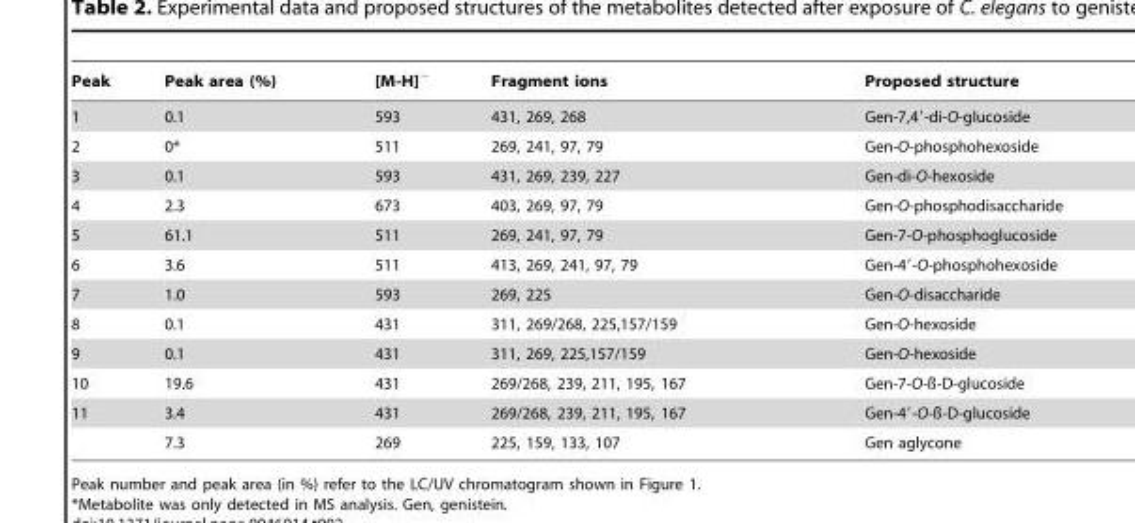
<table><thead><tr><td>Peak</td><td>Peak area (%)</td><td>[M-H]<sup>−</sup></td><td>Fragment ions</td><td>Proposed structure</td></tr></thead><tbody><tr><td>1</td><td>0.1</td><td>593</td><td>431, 269, 268</td><td>Gen-7,4′-di-O-glucoside</td></tr><tr><td>2</td><td>0*</td><td>511</td><td>269, 241, 97, 79</td><td>Gen-O-phosphohexoside</td></tr><tr><td>3</td><td>0.1</td><td>593</td><td>431, 269, 239, 227</td><td>Gen-di-O-hexoside</td></tr><tr><td>4</td><td>2.3</td><td>673</td><td>403, 269, 97, 79</td><td>Gen-O-phosphodisaccharide</td></tr><tr><td>5</td><td>61.1</td><td>511</td><td>269, 241, 97, 79</td><td>Gen-7-O-phosphoglucoside</td></tr><tr><td>6</td><td>3.6</td><td>511</td><td>413, 269, 241, 97, 79</td><td>Gen-4′-O-phosphohexoside</td></tr><tr><td>7</td><td>1.0</td><td>593</td><td>269, 225</td><td>Gen-O-disaccharide</td></tr><tr><td>8</td><td>0.1</td><td>431</td><td>311, 269/268, 225,157/159</td><td>Gen-O-hexoside</td></tr><tr><td>9</td><td>0.1</td><td>431</td><td>311, 269, 225,157/159</td><td>Gen-O-hexoside</td></tr><tr><td>10</td><td>19.6</td><td>431</td><td>269/268, 239, 211, 195, 167</td><td>Gen-7-O-ß-D-glucoside</td></tr><tr><td rowspan="2">11</td><td>3.4</td><td>431</td><td>269/268, 239, 211, 195, 167</td><td>Gen-4′-O-ß-D-glucoside</td></tr><tr><td>7.3</td><td>269</td><td>225, 159, 133, 107</td><td>Gen aglycone</td></tr></tbody></table>